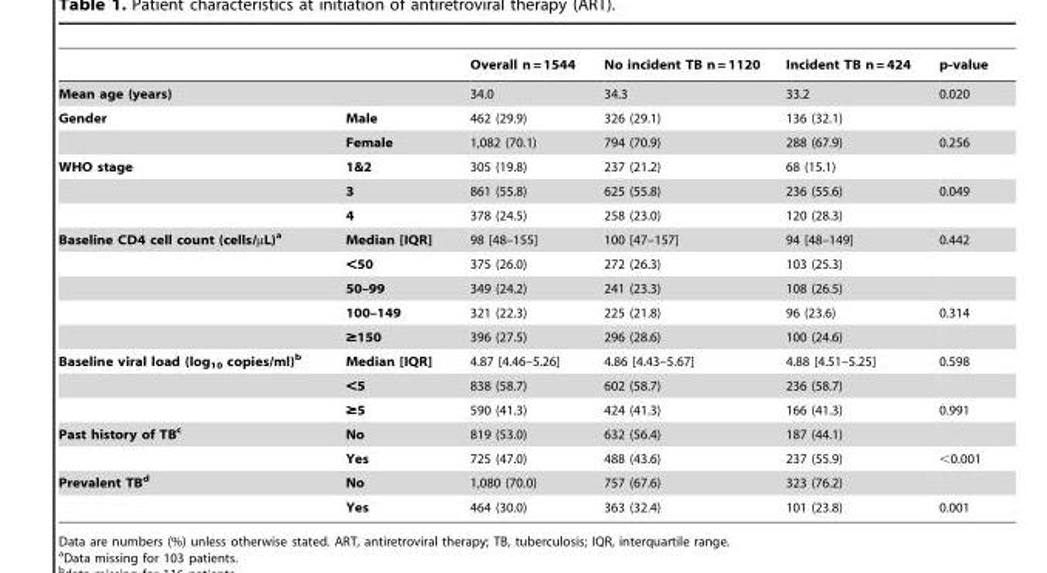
<table><thead><tr><td></td><td></td><td>Overall n = 1544</td><td>No incident TB n = 1120</td><td>Incident TB n = 424</td><td>p-value</td></tr></thead><tbody><tr><td colspan="2">Mean age (years)</td><td>34.0</td><td>34.3</td><td>33.2</td><td>0.020</td></tr><tr><td rowspan="2">Gender</td><td>Male</td><td>462 (29.9)</td><td>326 (29.1)</td><td>136 (32.1)</td><td></td></tr><tr><td>Female</td><td>1,082 (70.1)</td><td>794 (70.9)</td><td>288 (67.9)</td><td>0.256</td></tr><tr><td rowspan="3">WHO stage</td><td>1&amp;2</td><td>305 (19.8)</td><td>237 (21.2)</td><td>68 (15.1)</td><td></td></tr><tr><td>3</td><td>861 (55.8)</td><td>625 (55.8)</td><td>236 (55.6)</td><td>0.049</td></tr><tr><td>4</td><td>378 (24.5)</td><td>258 (23.0)</td><td>120 (28.3)</td><td></td></tr><tr><td rowspan="5">Baseline CD4 cell count (cells/µL)a</td><td>Median [IQR]</td><td>98 [48–155]</td><td>100 [47–157]</td><td>94 [48–149]</td><td>0.442</td></tr><tr><td>&lt;50</td><td>375 (26.0)</td><td>272 (26.3)</td><td>103 (25.3)</td><td></td></tr><tr><td>50–99</td><td>349 (24.2)</td><td>241 (23.3)</td><td>108 (26.5)</td><td></td></tr><tr><td>100–149</td><td>321 (22.3)</td><td>225 (21.8)</td><td>96 (23.6)</td><td>0.314</td></tr><tr><td>≥150</td><td>396 (27.5)</td><td>296 (28.6)</td><td>100 (24.6)</td><td></td></tr><tr><td rowspan="3">Baseline viral load (log<sub>10</sub> copies/ml)b</td><td>Median [IQR]</td><td>4.87 [4.46–5.26]</td><td>4.86 [4.43–5.67]</td><td>4.88 [4.51–5.25]</td><td>0.598</td></tr><tr><td>&lt;5</td><td>838 (58.7)</td><td>602 (58.7)</td><td>236 (58.7)</td><td></td></tr><tr><td>≥5</td><td>590 (41.3)</td><td>424 (41.3)</td><td>166 (41.3)</td><td>0.991</td></tr><tr><td rowspan="2">Past history of TBc</td><td>No</td><td>819 (53.0)</td><td>632 (56.4)</td><td>187 (44.1)</td><td></td></tr><tr><td>Yes</td><td>725 (47.0)</td><td>488 (43.6)</td><td>237 (55.9)</td><td>&lt;0.001</td></tr><tr><td rowspan="2">Prevalent TBd</td><td>No</td><td>1,080 (70.0)</td><td>757 (67.6)</td><td>323 (76.2)</td><td></td></tr><tr><td>Yes</td><td>464 (30.0)</td><td>363 (32.4)</td><td>101 (23.8)</td><td>0.001</td></tr></tbody></table>